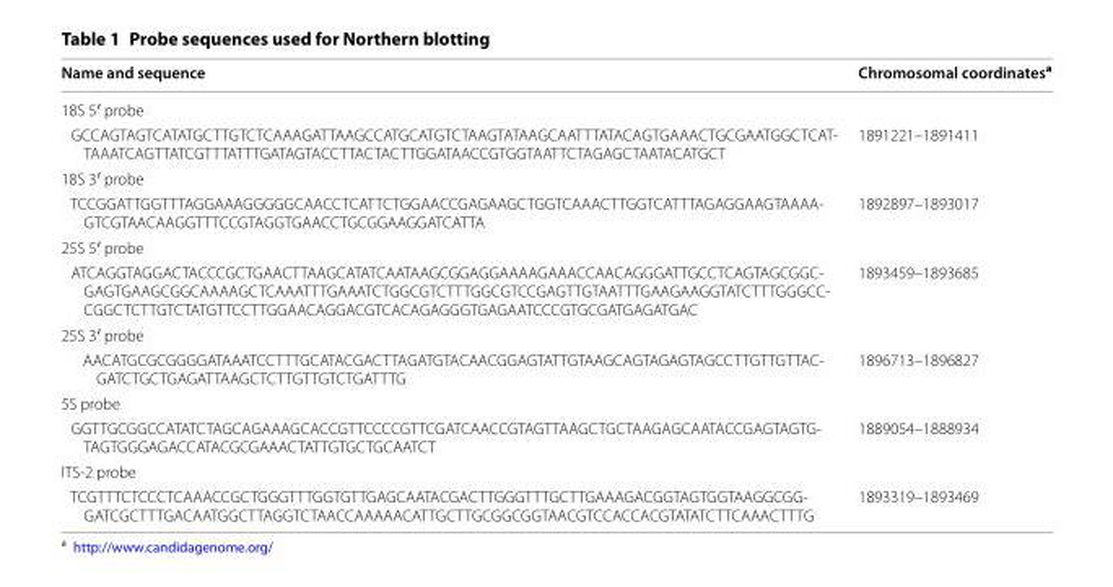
<table><thead><tr><td>Name and sequence</td><td>Chromosomal coordinates<sup>a</sup></td></tr></thead><tbody><tr><td colspan="2">18S 5′ probe</td></tr><tr><td>GCCAGTAGTCATATGCTTGTCTCAAAGATTAAGCCATGCATGTCTAAGTATAAGCAATTTATACAGTGAAACTGCGAATGGCTCAT- TAAATCAGTTATCGTTTATTTGATAGTACCTTACTACTTGGATAACCGTGGTAATTCTAGAGCTAATACATGCT</td><td>1891221–1891411</td></tr><tr><td colspan="2">18S 3′ probe</td></tr><tr><td>TCCGGATTGGTTTAGGAAAGGGGGCAACCTCATTCTGGAACCGAGAAGCTGGTCAAACTTGGTCATTTAGAGGAAGTAAAA- GTCGTAACAAGGTTTCCGTAGGTGAACCTGCGGAAGGATCATTA</td><td>1892897–1893017</td></tr><tr><td colspan="2">25S 5′ probe</td></tr><tr><td>ATCAGGTAGGACTACCCGCTGAACTTAAGCATATCAATAAGCGGAGGAAAAGAAACCAACAGGGATTGCCTCAGTAGCGGC- GAGTGAAGCGGCAAAAGCTCAAATTTGAAATCTGGCGTCTTTGGCGTCCGAGTTGTAATTTGAAGAAGGTATCTTTGGGCC- CGGCTCTTGTCTATGTTCCTTGGAACAGGACGTCACAGAGGGTGAGAATCCCGTGCGATGAGATGAC</td><td>1893459–1893685</td></tr><tr><td colspan="2">25S 3′ probe</td></tr><tr><td>AACATGCGCGGGGATAAATCCTTTGCATACGACTTAGATGTACAACGGAGTATTGTAAGCAGTAGAGTAGCCTTGTTGTTAC- GATCTGCTGAGATTAAGCTCTTGTTGTCTGATTTG</td><td>1896713–1896827</td></tr><tr><td colspan="2">5S probe</td></tr><tr><td>GGTTGCGGCCATATCTAGCAGAAAGCACCGTTCCCCGTTCGATCAACCGTAGTTAAGCTGCTAAGAGCAATACCGAGTAGTG- TAGTGGGAGACCATACGCGAAACTATTGTGCTGCAATCT</td><td>1889054–1888934</td></tr><tr><td colspan="2">ITS-2 probe</td></tr><tr><td>TCGTTTCTCCCTCAAACCGCTGGGTTTGGTGTTGAGCAATACGACTTGGGTTTGCTTGAAAGACGGTAGTGGTAAGGCGG- GATCGCTTTGACAATGGCTTAGGTCTAACCAAAAACATTGCTTGCGGCGGTAACGTCCACCACGTATATCTTCAAACTTTG</td><td>1893319–1893469</td></tr></tbody></table>